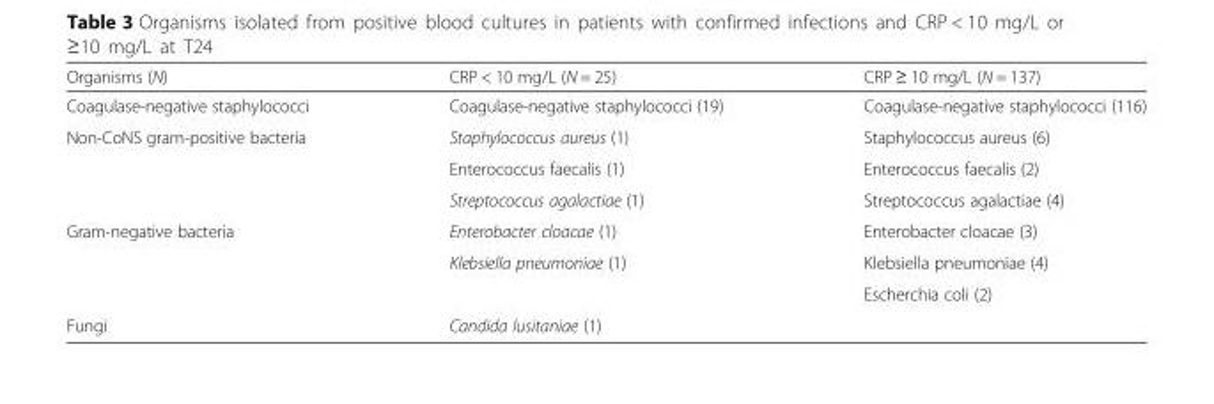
<table><thead><tr><td>Organisms (N)</td><td>CRP &lt; 10 mg/L (N = 25)</td><td>CRP ≥ 10 mg/L (N = 137)</td></tr></thead><tbody><tr><td>Coagulase-negative staphylococci</td><td>Coagulase-negative staphylococci (19)</td><td>Coagulase-negative staphylococci (116)</td></tr><tr><td rowspan="3">Non-CoNS gram-positive bacteria</td><td>Staphylococcus aureus (1)</td><td>Staphylococcus aureus (6)</td></tr><tr><td>Enterococcus faecalis (1)</td><td>Enterococcus faecalis (2)</td></tr><tr><td>Streptococcus agalactiae (1)</td><td>Streptococcus agalactiae (4)</td></tr><tr><td rowspan="3">Gram-negative bacteria</td><td>Enterobacter cloacae (1)</td><td>Enterobacter cloacae (3)</td></tr><tr><td>Klebsiella pneumoniae (1)</td><td>Klebsiella pneumoniae (4)</td></tr><tr><td></td><td>Escherchia coli (2)</td></tr><tr><td>Fungi</td><td>Candida lusitaniae (1)</td><td></td></tr></tbody></table>